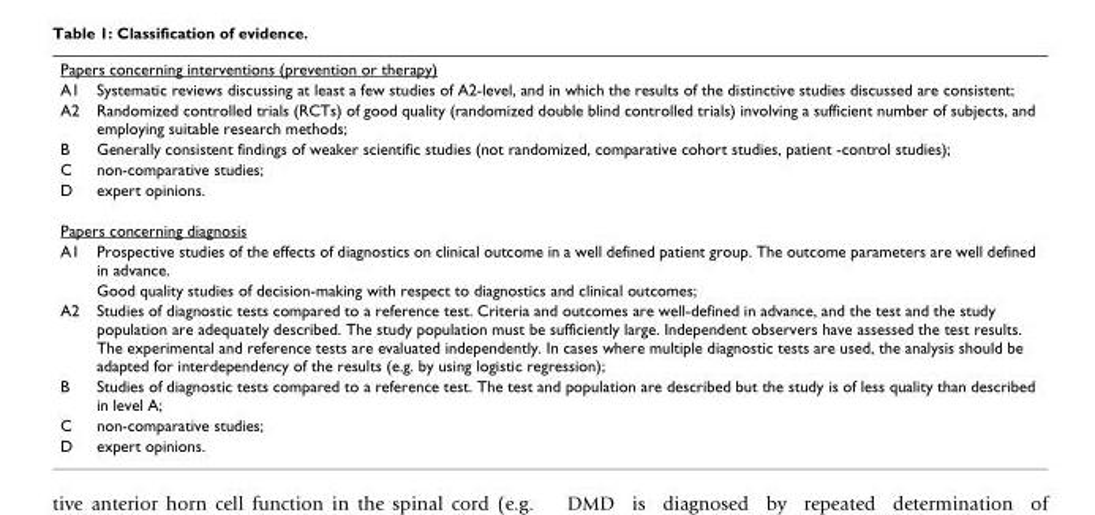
<table><tbody><tr><td colspan="2">Papers concerning interventions (prevention or therapy)</td></tr><tr><td>A1</td><td>Systematic reviews discussing at least a few studies of A2-level, and in which the results of the distinctive studies discussed are consistent;</td></tr><tr><td>A2</td><td>Randomized controlled trials (RCTs) of good quality (randomized double blind controlled trials) involving a sufficient number of subjects, and employing suitable research methods;</td></tr><tr><td>B</td><td>Generally consistent findings of weaker scientific studies (not randomized, comparative cohort studies, patient -control studies);</td></tr><tr><td>C</td><td>non-comparative studies;</td></tr><tr><td>D</td><td>expert opinions.</td></tr><tr><td colspan="2">Papers concerning diagnosis</td></tr><tr><td rowspan="2">A1</td><td>Prospective studies of the effects of diagnostics on clinical outcome in a well defined patient group. The outcome parameters are well defined in advance.</td></tr><tr><td>Good quality studies of decision-making with respect to diagnostics and clinical outcomes;</td></tr><tr><td>A2</td><td>Studies of diagnostic tests compared to a reference test. Criteria and outcomes are well-defined in advance, and the test and the study population are adequately described. The study population must be sufficiently large. Independent observers have assessed the test results. The experimental and reference tests are evaluated independently. In cases where multiple diagnostic tests are used, the analysis should be adapted for interdependency of the results (e.g. by using logistic regression);</td></tr><tr><td>B</td><td>Studies of diagnostic tests compared to a reference test. The test and population are described but the study is of less quality than described in level A;</td></tr><tr><td>C</td><td>non-comparative studies;</td></tr><tr><td>D</td><td>expert opinions.</td></tr></tbody></table>